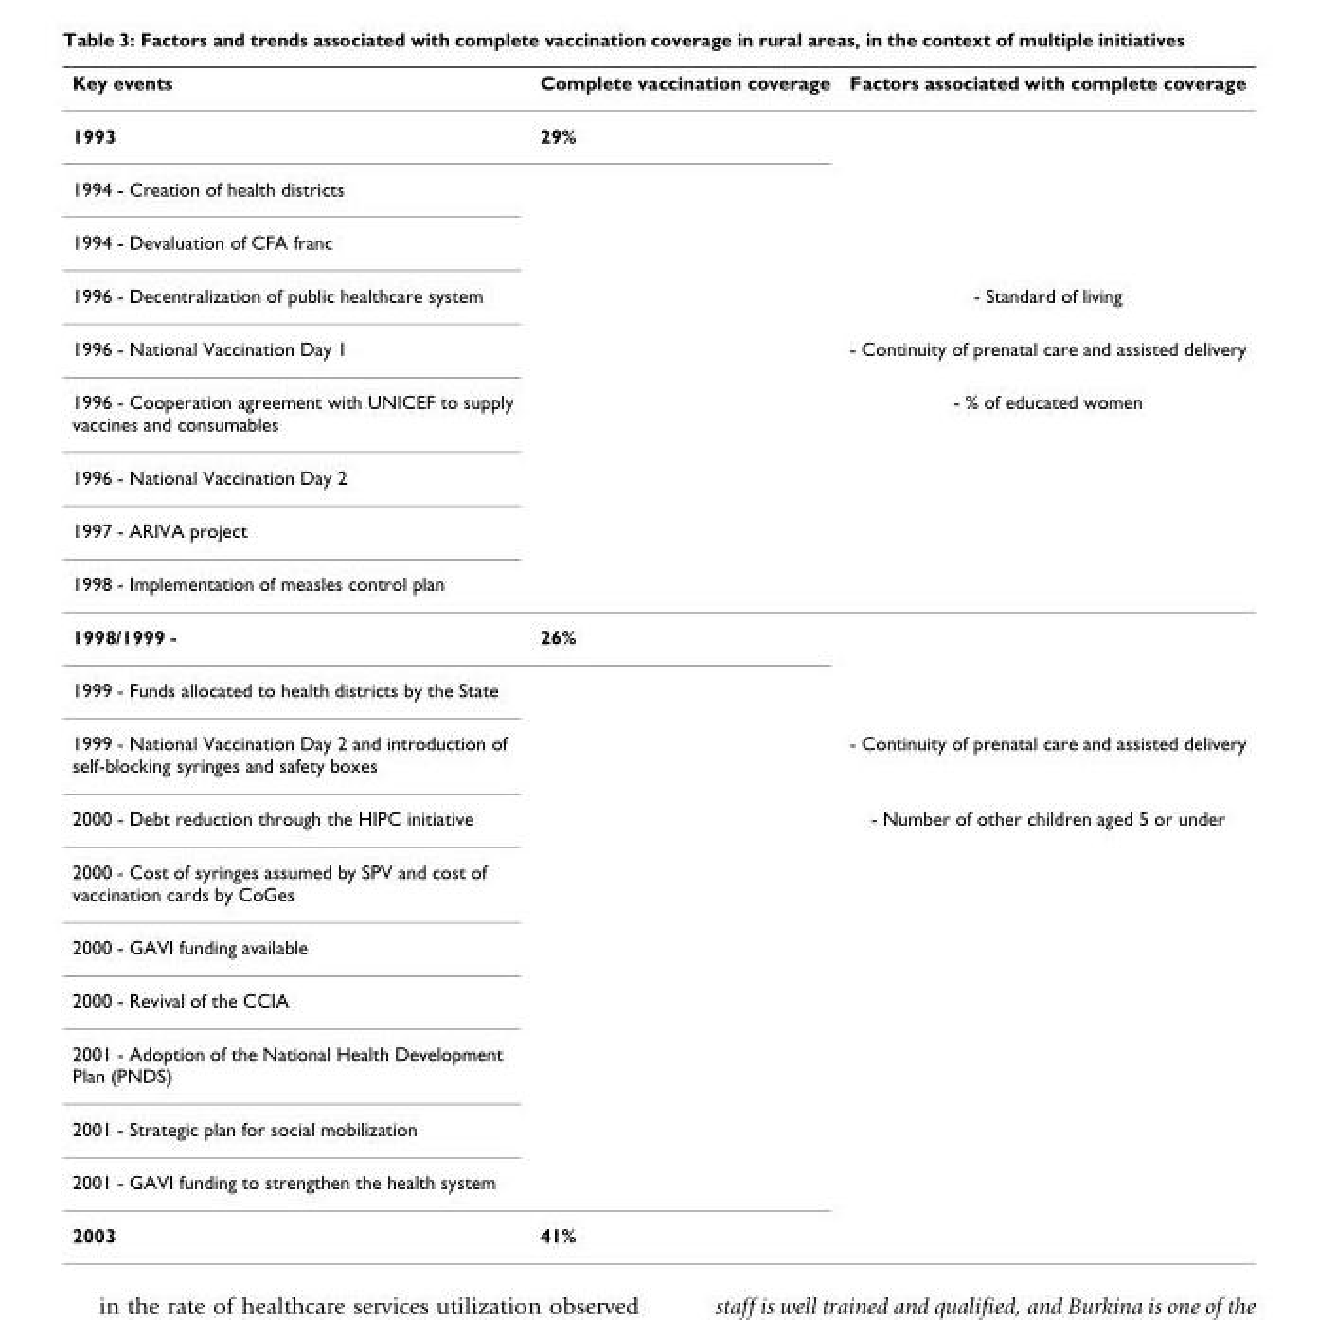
<table><thead><tr><td>Key events</td><td>Complete vaccination coverage</td><td>Factors associated with complete coverage</td></tr></thead><tbody><tr><td>1993</td><td>29%</td><td></td></tr><tr><td colspan="3">1994 - Creation of health districts</td></tr><tr><td colspan="3">1994 - Devaluation of CFA franc</td></tr><tr><td>1996 - Decentralization of public healthcare system</td><td></td><td>- Standard of living</td></tr><tr><td>1996 - National Vaccination Day 1</td><td></td><td>- Continuity of prenatal care and assisted delivery</td></tr><tr><td>1996 - Cooperation agreement with UNICEF to supply vaccines and consumables</td><td></td><td>- % of educated women</td></tr><tr><td colspan="3">1996 - National Vaccination Day 2</td></tr><tr><td colspan="3">1997 - ARIVA project</td></tr><tr><td colspan="3">1998 - Implementation of measles control plan</td></tr><tr><td>1998/1999 -</td><td>26%</td><td></td></tr><tr><td colspan="3">1999 - Funds allocated to health districts by the State</td></tr><tr><td>1999 - National Vaccination Day 2 and introduction of self-blocking syringes and safety boxes</td><td></td><td>- Continuity of prenatal care and assisted delivery</td></tr><tr><td>2000 - Debt reduction through the HIPC initiative</td><td></td><td>- Number of other children aged 5 or under</td></tr><tr><td colspan="3">2000 - Cost of syringes assumed by SPV and cost of vaccination cards by CoGes</td></tr><tr><td colspan="3">2000 - GAVI funding available</td></tr><tr><td colspan="3">2000 - Revival of the CCIA</td></tr><tr><td colspan="3">2001 - Adoption of the National Health Development Plan (PNDS)</td></tr><tr><td colspan="3">2001 - Strategic plan for social mobilization</td></tr><tr><td colspan="3">2001 - GAVI funding to strengthen the health system</td></tr><tr><td>2003</td><td>41%</td><td></td></tr></tbody></table>